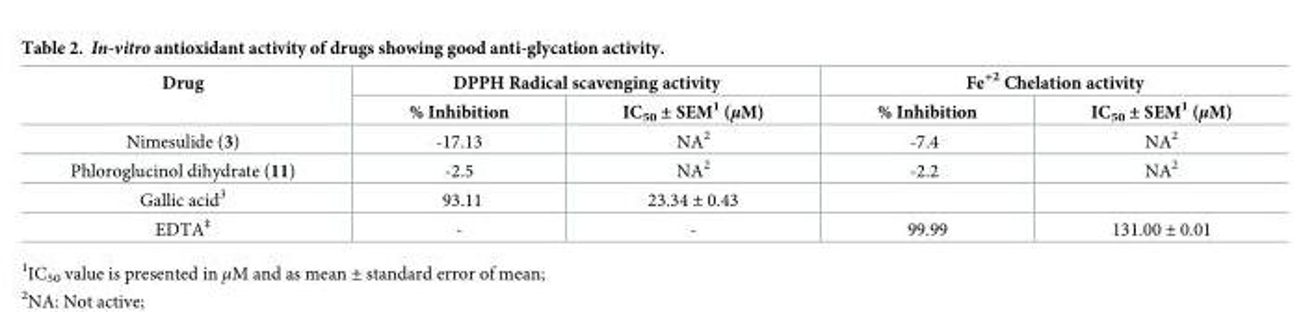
<table><thead><tr><td rowspan="2">Drug</td><td colspan="2">DPPH Radical scavenging activity</td><td colspan="2">Fe<sup>+2</sup> Chelation activity</td></tr><tr><td>% Inhibition</td><td>IC<sub>50</sub> ± SEM<sup>1</sup> (μM)</td><td>% Inhibition</td><td>IC<sub>50</sub> ± SEM<sup>1</sup> (μM)</td></tr></thead><tbody><tr><td>Nimesulide (3)</td><td>-17.13</td><td>NA<sup>2</sup></td><td>-7.4</td><td>NA<sup>2</sup></td></tr><tr><td>Phloroglucinol dihydrate (11)</td><td>-2.5</td><td>NA<sup>2</sup></td><td>-2.2</td><td>NA<sup>2</sup></td></tr><tr><td>Gallic acid<sup>3</sup></td><td>93.11</td><td>23.34 ± 0.43</td><td></td><td></td></tr><tr><td>EDTA<sup>‡</sup></td><td>-</td><td>-</td><td>99.99</td><td>131.00 ± 0.01</td></tr></tbody></table>